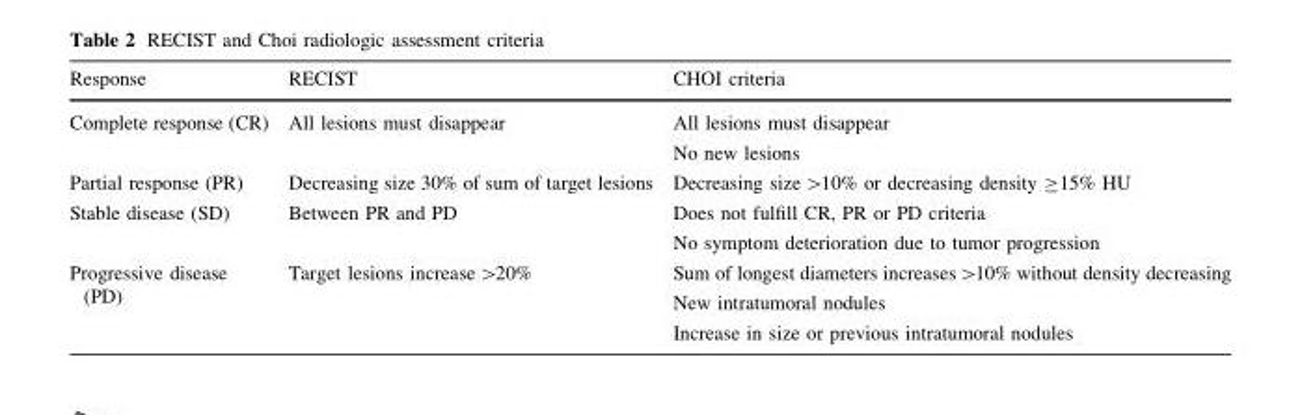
<table><thead><tr><td>Response</td><td>RECIST</td><td>CHOI criteria</td></tr></thead><tbody><tr><td>Complete response (CR)</td><td>All lesions must disappear</td><td>All lesions must disappear No new lesions</td></tr><tr><td>Partial response (PR)</td><td>Decreasing size 30% of sum of target lesions</td><td>Decreasing size &gt;10% or decreasing density ≥15% HU</td></tr><tr><td>Stable disease (SD)</td><td>Between PR and PD</td><td>Does not fulfill CR, PR or PD criteria No symptom deterioration due to tumor progression</td></tr><tr><td>Progressive disease (PD)</td><td>Target lesions increase &gt;20%</td><td>Sum of longest diameters increases&gt;10% without density decreasing New intratumoral nodules Increase in size or previous intratumoral nodules</td></tr></tbody></table>